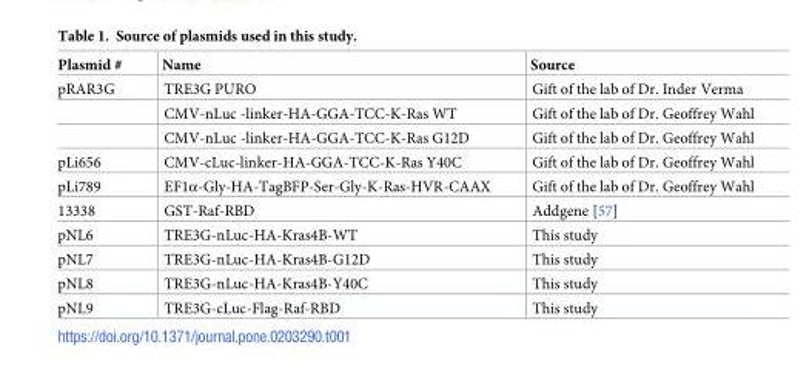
<table><thead><tr><td>Plasmid #</td><td>Name</td><td>Source</td></tr></thead><tbody><tr><td rowspan="3">pRAR3G</td><td>TRE3G PURO</td><td>Gift of the lab of Dr. Inder Verma</td></tr><tr><td>CMV-nLuc -linker-HA-GGA-TCC-K-Ras WT</td><td>Gift of the lab of Dr. Geoffrey Wahl</td></tr><tr><td>CMV-nLuc -linker-HA-GGA-TCC-K-Ras G12D</td><td>Gift of the lab of Dr. Geoffrey Wahl</td></tr><tr><td>pLi656</td><td>CMV-cLuc-linker-HA-GGA-TCC-K-Ras Y40C</td><td>Gift of the lab of Dr. Geoffrey Wahl</td></tr><tr><td>pLi789</td><td>EF1α-Gly-HA-TagBFP-Ser-Gly-K-Ras-HVR-CAAX</td><td>Gift of the lab of Dr. Geoffrey Wahl</td></tr><tr><td>13338</td><td>GST-Raf-RBD</td><td>Addgene [57]</td></tr><tr><td>pNL6</td><td>TRE3G-nLuc-HA-Kras4B-WT</td><td>This study</td></tr><tr><td>pNL7</td><td>TRE3G-nLuc-HA-Kras4B-G12D</td><td>This study</td></tr><tr><td>pNL8</td><td>TRE3G-nLuc-HA-Kras4B-Y40C</td><td>This study</td></tr><tr><td>pNL9</td><td>TRE3G-cLuc-Flag-Raf-RBD</td><td>This study</td></tr></tbody></table>